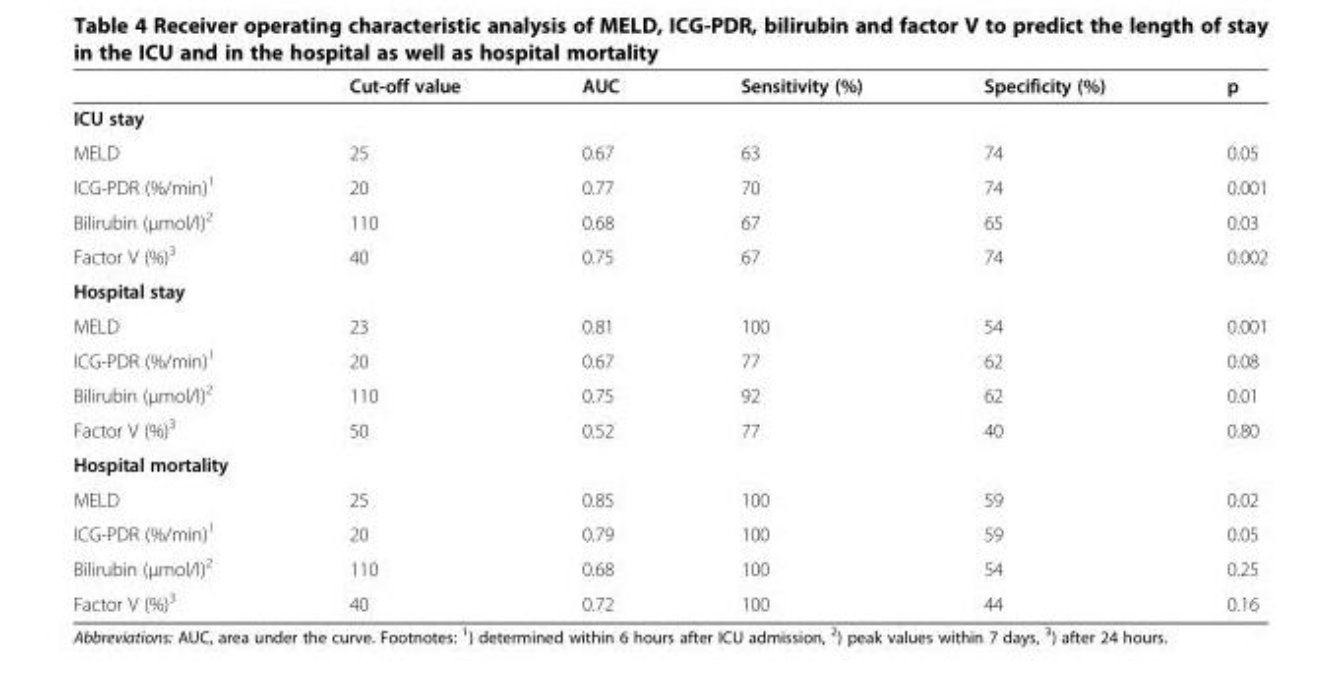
<table><thead><tr><td></td><td>Cut-off value</td><td>AUC</td><td>Sensitivity (%)</td><td>Specificity (%)</td><td>p</td></tr></thead><tbody><tr><td colspan="6">ICU stay</td></tr><tr><td>MELD</td><td>25</td><td>0.67</td><td>63</td><td>74</td><td>0.05</td></tr><tr><td>ICG-PDR (%/min)<sup>1</sup></td><td>20</td><td>0.77</td><td>70</td><td>74</td><td>0.001</td></tr><tr><td>Bilirubin (μmol/l)<sup>2</sup></td><td>110</td><td>0.68</td><td>67</td><td>65</td><td>0.03</td></tr><tr><td>Factor V (%)<sup>3</sup></td><td>40</td><td>0.75</td><td>67</td><td>74</td><td>0.002</td></tr><tr><td colspan="6">Hospital stay</td></tr><tr><td>MELD</td><td>23</td><td>0.81</td><td>100</td><td>54</td><td>0.001</td></tr><tr><td>ICG-PDR (%/min)<sup>1</sup></td><td>20</td><td>0.67</td><td>77</td><td>62</td><td>0.08</td></tr><tr><td>Bilirubin (μmol/l)<sup>2</sup></td><td>110</td><td>0.75</td><td>92</td><td>62</td><td>0.01</td></tr><tr><td>Factor V (%)<sup>3</sup></td><td>50</td><td>0.52</td><td>77</td><td>40</td><td>0.80</td></tr><tr><td colspan="6">Hospital mortality</td></tr><tr><td>MELD</td><td>25</td><td>0.85</td><td>100</td><td>59</td><td>0.02</td></tr><tr><td>ICG-PDR (%/min)<sup>1</sup></td><td>20</td><td>0.79</td><td>100</td><td>59</td><td>0.05</td></tr><tr><td>Bilirubin (μmol/l)<sup>2</sup></td><td>110</td><td>0.68</td><td>100</td><td>54</td><td>0.25</td></tr><tr><td>Factor V (%)<sup>3</sup></td><td>40</td><td>0.72</td><td>100</td><td>44</td><td>0.16</td></tr></tbody></table>